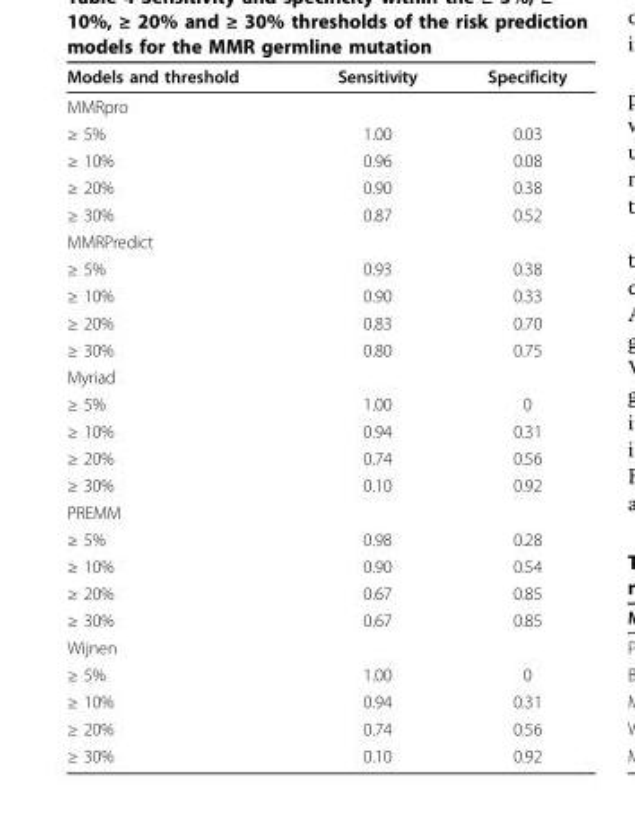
<table><thead><tr><td>Models and threshold</td><td>Sensitivity</td><td>Specificity</td></tr></thead><tbody><tr><td colspan="3">MMRpro</td></tr><tr><td>≥ 5%</td><td>1.00</td><td>0.03</td></tr><tr><td>≥ 10%</td><td>0.96</td><td>0.08</td></tr><tr><td>≥ 20%</td><td>0.90</td><td>0.38</td></tr><tr><td>≥ 30%</td><td>0.87</td><td>0.52</td></tr><tr><td colspan="3">MMRPredict</td></tr><tr><td>≥ 5%</td><td>0.93</td><td>0.38</td></tr><tr><td>≥ 10%</td><td>0.90</td><td>0.33</td></tr><tr><td>≥ 20%</td><td>0.83</td><td>0.70</td></tr><tr><td>≥ 30%</td><td>0.80</td><td>0.75</td></tr><tr><td colspan="3">Myriad</td></tr><tr><td>≥ 5%</td><td>1.00</td><td>0</td></tr><tr><td>≥ 10%</td><td>0.94</td><td>0.31</td></tr><tr><td>≥ 20%</td><td>0.74</td><td>0.56</td></tr><tr><td>≥ 30%</td><td>0.10</td><td>0.92</td></tr><tr><td colspan="3">PREMM</td></tr><tr><td>≥ 5%</td><td>0.98</td><td>0.28</td></tr><tr><td>≥ 10%</td><td>0.90</td><td>0.54</td></tr><tr><td>≥ 20%</td><td>0.67</td><td>0.85</td></tr><tr><td>≥ 30%</td><td>0.67</td><td>0.85</td></tr><tr><td colspan="3">Wijnen</td></tr><tr><td>≥ 5%</td><td>1.00</td><td>0</td></tr><tr><td>≥ 10%</td><td>0.94</td><td>0.31</td></tr><tr><td>≥ 20%</td><td>0.74</td><td>0.56</td></tr><tr><td>≥ 30%</td><td>0.10</td><td>0.92</td></tr></tbody></table>